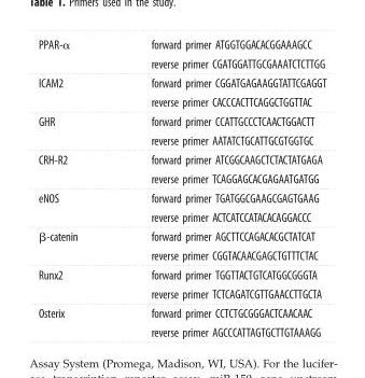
<table><tbody><tr><td>PPAR-α</td><td>forward primer ATGGTGGACACGGAAAGCC reverse primer CGATGGATTGCGAAATCTCTTGG</td></tr><tr><td>ICAM2</td><td>forward primer CGGATGAGAAGGTATTCGAGGT reverse primer CACCCACTTCAGGCTGGTTAC</td></tr><tr><td>GHR</td><td>forward primer CCATTGCCCTCAACTGGACTT reverse primer AATATCTGCATTGCGTGGTGC</td></tr><tr><td>CRH-R2</td><td>forward primer ATCGGCAAGCTCTACTATGAGA reverse primer TCAGGAGCACGAGAATGATGG</td></tr><tr><td>eNOS</td><td>forward primer TGATGGCGAAGCGAGTGAAG reverse primer ACTCATCCATACACAGGACCC</td></tr><tr><td>β-catenin</td><td>forward primer AGCTTCCAGACACGCTATCAT reverse primer CGGTACAACGAGCTGTTTCTAC</td></tr><tr><td>Runx2</td><td>forward primer TGGTTACTGTCATGGCGGGTA reverse primer TCTCAGATCGTTGAACCTTGCTA</td></tr><tr><td>Osterix</td><td>forward primer CCTCTGCGGGACTCAACAAC reverse primer AGCCCATTAGTGCTTGTAAAGG</td></tr></tbody></table>